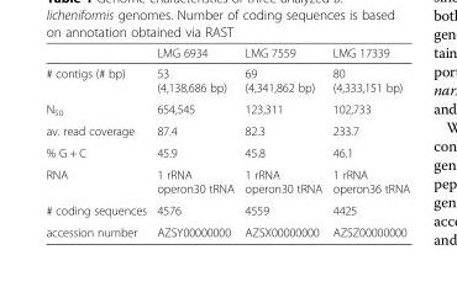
<table><thead><tr><td></td><td>LMG 6934</td><td>LMG 7559</td><td>LMG 17339</td></tr></thead><tbody><tr><td># contigs (# bp)</td><td>53 (4,138,686 bp)</td><td>69 (4,341,862 bp)</td><td>80 (4,333,151 bp)</td></tr><tr><td>N<sub>50</sub></td><td>654,545</td><td>123,311</td><td>102,733</td></tr><tr><td>av. read coverage</td><td>87.4</td><td>82.3</td><td>233.7</td></tr><tr><td>% G + C</td><td>45.9</td><td>45.8</td><td>46.1</td></tr><tr><td>RNA</td><td>1 rRNA operon30 tRNA</td><td>1 rRNA operon30 tRNA</td><td>1 rRNA operon36 tRNA</td></tr><tr><td># coding sequences</td><td>4576</td><td>4559</td><td>4425</td></tr><tr><td>accession number</td><td>AZSY00000000</td><td>AZSX00000000</td><td>AZSZ00000000</td></tr></tbody></table>